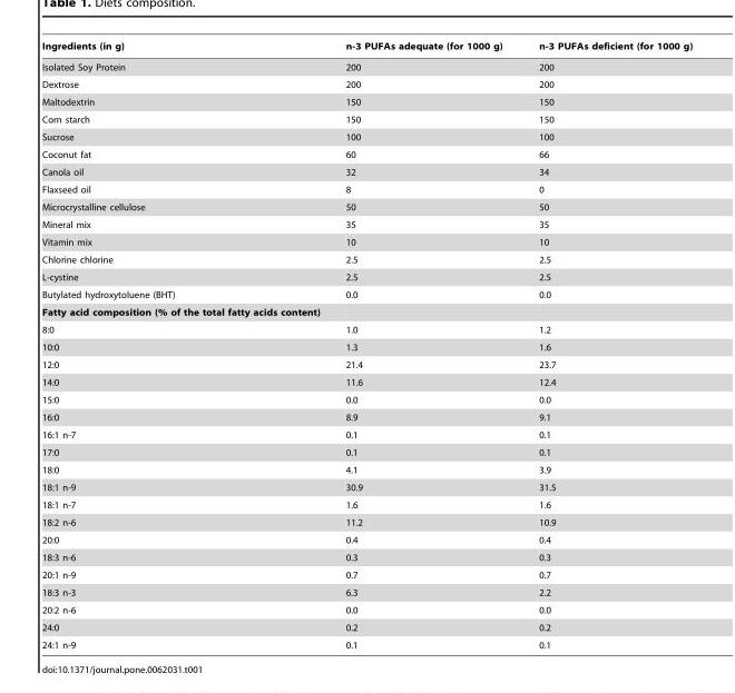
<table><thead><tr><td>Ingredients (in g)</td><td>n-3 PUFAs adequate (for 1000 g)</td><td>n-3 PUFAs deficient (for 1000 g)</td></tr></thead><tbody><tr><td>Isolated Soy Protein</td><td>200</td><td>200</td></tr><tr><td>Dextrose</td><td>200</td><td>200</td></tr><tr><td>Maltodextrin</td><td>150</td><td>150</td></tr><tr><td>Corn starch</td><td>150</td><td>150</td></tr><tr><td>Sucrose</td><td>100</td><td>100</td></tr><tr><td>Coconut fat</td><td>60</td><td>66</td></tr><tr><td>Canola oil</td><td>32</td><td>34</td></tr><tr><td>Flaxseed oil</td><td>8</td><td>0</td></tr><tr><td>Microcrystalline cellulose</td><td>50</td><td>50</td></tr><tr><td>Mineral mix</td><td>35</td><td>35</td></tr><tr><td>Vitamin mix</td><td>10</td><td>10</td></tr><tr><td>Chlorine chlorine</td><td>2.5</td><td>2.5</td></tr><tr><td>L-cystine</td><td>2.5</td><td>2.5</td></tr><tr><td>Butylated hydroxytoluene (BHT)</td><td>0.0</td><td>0.0</td></tr><tr><td colspan="3">Fatty acid composition (% of the total fatty acids content)</td></tr><tr><td>8:0</td><td>1.0</td><td>1.2</td></tr><tr><td>10:0</td><td>1.3</td><td>1.6</td></tr><tr><td>12:0</td><td>21.4</td><td>23.7</td></tr><tr><td>14:0</td><td>11.6</td><td>12.4</td></tr><tr><td>15:0</td><td>0.0</td><td>0.0</td></tr><tr><td>16:0</td><td>8.9</td><td>9.1</td></tr><tr><td>16:1 n-7</td><td>0.1</td><td>0.1</td></tr><tr><td>17:0</td><td>0.1</td><td>0.1</td></tr><tr><td>18:0</td><td>4.1</td><td>3.9</td></tr><tr><td>18:1 n-9</td><td>30.9</td><td>31.5</td></tr><tr><td>18:1 n-7</td><td>1.6</td><td>1.6</td></tr><tr><td>18:2 n-6</td><td>11.2</td><td>10.9</td></tr><tr><td>20:0</td><td>0.4</td><td>0.4</td></tr><tr><td>18:3 n-6</td><td>0.3</td><td>0.3</td></tr><tr><td>20:1 n-9</td><td>0.7</td><td>0.7</td></tr><tr><td>18:3 n-3</td><td>6.3</td><td>2.2</td></tr><tr><td>20:2 n-6</td><td>0.0</td><td>0.0</td></tr><tr><td>24:0</td><td>0.2</td><td>0.2</td></tr><tr><td>24:1 n-9</td><td>0.1</td><td>0.1</td></tr></tbody></table>